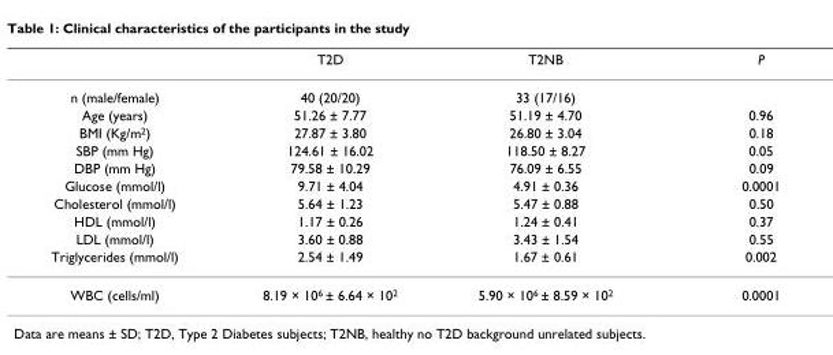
<table><thead><tr><td></td><td>T2D</td><td>T2NB</td><td>P</td></tr></thead><tbody><tr><td>n (male/female)</td><td>40 (20/20)</td><td>33 (17/16)</td><td></td></tr><tr><td>Age (years)</td><td>51.26 ± 7.77</td><td>51.19 ± 4.70</td><td>0.96</td></tr><tr><td>BMI (Kg/m<sup>2</sup>)</td><td>27.87 ± 3.80</td><td>26.80 ± 3.04</td><td>0.18</td></tr><tr><td>SBP (mm Hg)</td><td>124.61 ± 16.02</td><td>118.50 ± 8.27</td><td>0.05</td></tr><tr><td>DBP (mm Hg)</td><td>79.58 ± 10.29</td><td>76.09 ± 6.55</td><td>0.09</td></tr><tr><td>Glucose (mmol/l)</td><td>9.71 ± 4.04</td><td>4.91 ± 0.36</td><td>0.0001</td></tr><tr><td>Cholesterol (mmol/l)</td><td>5.64 ± 1.23</td><td>5.47 ± 0.88</td><td>0.50</td></tr><tr><td>HDL (mmol/l)</td><td>1.17 ± 0.26</td><td>1.24 ± 0.41</td><td>0.37</td></tr><tr><td>LDL (mmol/l)</td><td>3.60 ± 0.88</td><td>3.43 ± 1.54</td><td>0.55</td></tr><tr><td>Triglycerides (mmol/l)</td><td>2.54 ± 1.49</td><td>1.67 ± 0.61</td><td>0.002</td></tr><tr><td>WBC (cells/ml)</td><td>8.19 × 10<sup>6</sup> ± 6.64 × 10<sup>2</sup></td><td>5.90 × 10<sup>6</sup> ± 8.59 × 10<sup>2</sup></td><td>0.0001</td></tr></tbody></table>